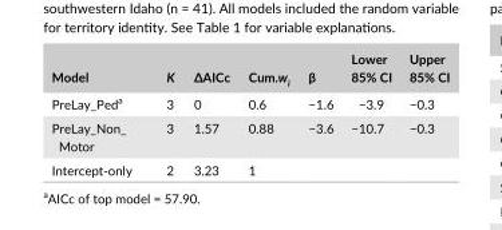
<table><thead><tr><td>Model</td><td>K</td><td>ΔAICc</td><td>Cum.w<sub>i</sub></td><td>β</td><td>Lower 85% CI</td><td>Upper 85% CI</td></tr></thead><tbody><tr><td>PreLay_Ped<sup>a</sup></td><td>3</td><td>0</td><td>0.6</td><td>−1.6</td><td>−3.9</td><td>−0.3</td></tr><tr><td>PreLay_Non_ Motor</td><td>3</td><td>1.57</td><td>0.88</td><td>−3.6</td><td>−10.7</td><td>−0.3</td></tr><tr><td>Intercept- only</td><td>2</td><td>3.23</td><td>1</td><td></td><td></td><td></td></tr></tbody></table>